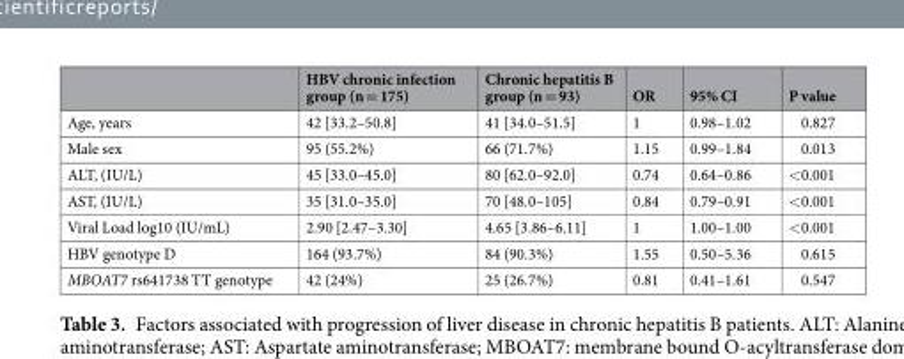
<table><thead><tr><td></td><td>HBV chronic infection group (n = 175)</td><td>Chronic hepatitis B group (n = 93)</td><td>OR</td><td>95% CI</td><td>P value</td></tr></thead><tbody><tr><td>Age, years</td><td>42 [33.2–50.8]</td><td>41 [34.0–51.5]</td><td>1</td><td>0.98–1.02</td><td>0.827</td></tr><tr><td>Male sex</td><td>95 (55.2%)</td><td>66 (71.7%)</td><td>1.15</td><td>0.99–1.84</td><td>0.013</td></tr><tr><td>ALT, (IU/L)</td><td>45 [33.0–45.0]</td><td>80 [62.0–92.0]</td><td>0.74</td><td>0.64–0.86</td><td>&lt;0.001</td></tr><tr><td>AST, (IU/L)</td><td>35 [31.0–35.0]</td><td>70 [48.0–105]</td><td>0.84</td><td>0.79–0.91</td><td>&lt;0.001</td></tr><tr><td>Viral Load log10 (IU/mL)</td><td>2.90 [2.47–3.30]</td><td>4.65 [3.86–6.11]</td><td>1</td><td>1.00–1.00</td><td>&lt;0.001</td></tr><tr><td>HBV genotype D</td><td>164 (93.7%)</td><td>84 (90.3%)</td><td>1.55</td><td>0.50–5.36</td><td>0.615</td></tr><tr><td>MBOAT7 rs641738 TT genotype</td><td>42 (24%)</td><td>25 (26.7%)</td><td>0.81</td><td>0.41–1.61</td><td>0.547</td></tr></tbody></table>